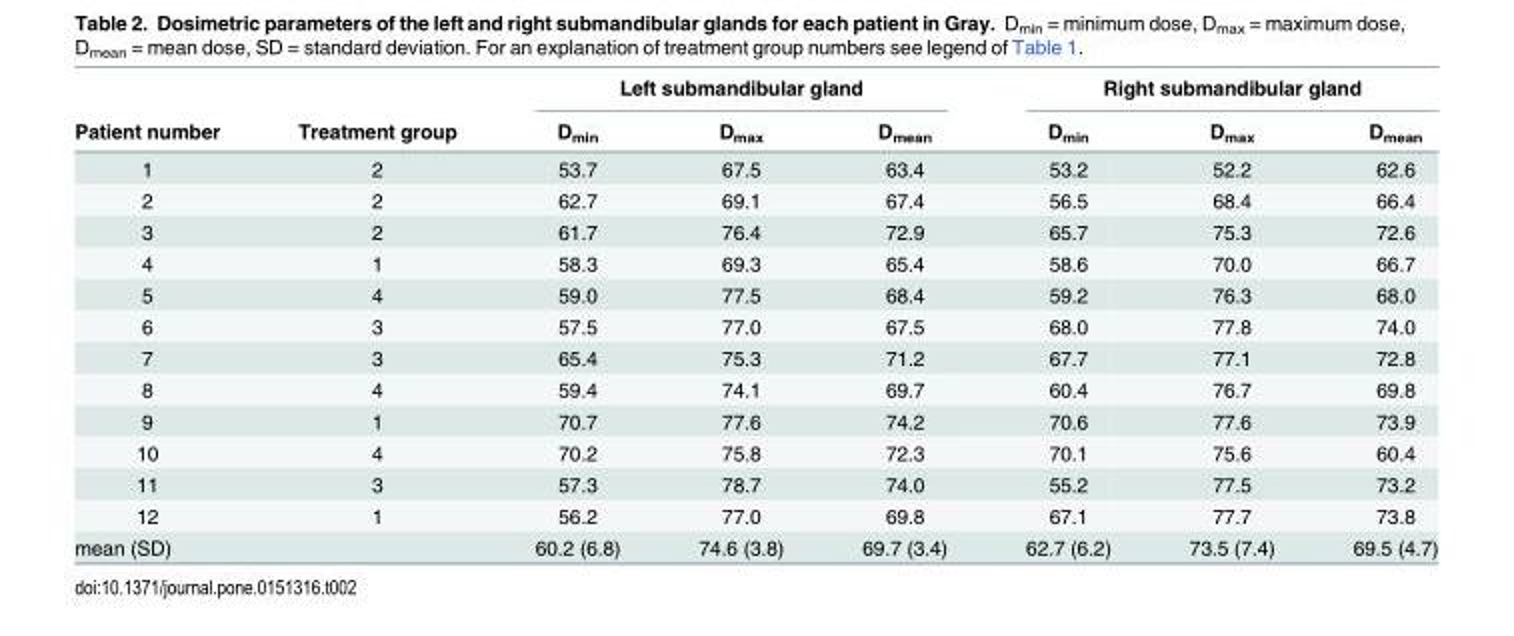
<table><thead><tr><td rowspan="2">Patient number</td><td rowspan="2">Treatment group</td><td colspan="3">Left submandibular gland</td><td colspan="3">Right submandibular gland</td></tr><tr><td>D<sub>min</sub></td><td>D<sub>max</sub></td><td>D<sub>mean</sub></td><td>D<sub>min</sub></td><td>D<sub>max</sub></td><td>D<sub>mean</sub></td></tr></thead><tbody><tr><td>1</td><td>2</td><td>53.7</td><td>67.5</td><td>63.4</td><td>53.2</td><td>52.2</td><td>62.6</td></tr><tr><td>2</td><td>2</td><td>62.7</td><td>69.1</td><td>67.4</td><td>56.5</td><td>68.4</td><td>66.4</td></tr><tr><td>3</td><td>2</td><td>61.7</td><td>76.4</td><td>72.9</td><td>65.7</td><td>75.3</td><td>72.6</td></tr><tr><td>4</td><td>1</td><td>58.3</td><td>69.3</td><td>65.4</td><td>58.6</td><td>70.0</td><td>66.7</td></tr><tr><td>5</td><td>4</td><td>59.0</td><td>77.5</td><td>68.4</td><td>59.2</td><td>76.3</td><td>68.0</td></tr><tr><td>6</td><td>3</td><td>57.5</td><td>77.0</td><td>67.5</td><td>68.0</td><td>77.8</td><td>74.0</td></tr><tr><td>7</td><td>3</td><td>65.4</td><td>75.3</td><td>71.2</td><td>67.7</td><td>77.1</td><td>72.8</td></tr><tr><td>8</td><td>4</td><td>59.4</td><td>74.1</td><td>69.7</td><td>60.4</td><td>76.7</td><td>69.8</td></tr><tr><td>9</td><td>1</td><td>70.7</td><td>77.6</td><td>74.2</td><td>70.6</td><td>77.6</td><td>73.9</td></tr><tr><td>10</td><td>4</td><td>70.2</td><td>75.8</td><td>72.3</td><td>70.1</td><td>75.6</td><td>60.4</td></tr><tr><td>11</td><td>3</td><td>57.3</td><td>78.7</td><td>74.0</td><td>55.2</td><td>77.5</td><td>73.2</td></tr><tr><td>12</td><td>1</td><td>56.2</td><td>77.0</td><td>69.8</td><td>67.1</td><td>77.7</td><td>73.8</td></tr><tr><td>mean (SD)</td><td></td><td>60.2 (6.8)</td><td>74.6 (3.8)</td><td>69.7 (3.4)</td><td>62.7 (6.2)</td><td>73.5 (7.4)</td><td>69.5 (4.7)</td></tr></tbody></table>